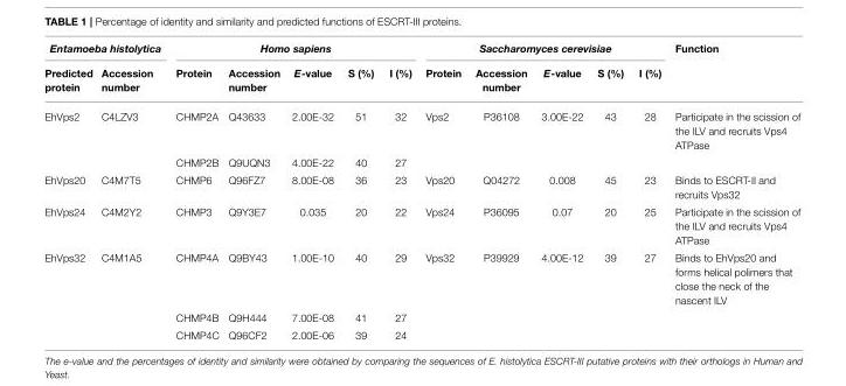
<table><thead><tr><td colspan="2">Entamoeba histolytica</td><td colspan="5">Homo sapiens</td><td colspan="5">Saccharomyces cerevisiae</td><td rowspan="2">Function</td></tr><tr><td>Predicted protein</td><td>Accession number</td><td>Protein</td><td>Accession number</td><td>E-value</td><td>S (%)</td><td>I (%)</td><td>Protein</td><td>Accession number</td><td>E-value</td><td>S (%)</td><td>I (%)</td></tr></thead><tbody><tr><td rowspan="2">EhVps2</td><td>C4LZV3</td><td>CHMP2A</td><td>Q43633</td><td>2.00E-32</td><td>51</td><td>32</td><td>Vps2</td><td>P36108</td><td>3.00E-22</td><td>43</td><td>28</td><td>Participate in the scission of the ILV and recruits Vps4 ATPase</td></tr><tr><td></td><td>CHMP2B</td><td>Q9UQN3</td><td>4.00E-22</td><td>40</td><td>27</td><td></td><td></td><td></td><td></td><td></td><td></td></tr><tr><td>EhVps20</td><td>C4M7T5</td><td>CHMP6</td><td>Q96FZ7</td><td>8.00E-08</td><td>36</td><td>23</td><td>Vps20</td><td>Q04272</td><td>0.008</td><td>45</td><td>23</td><td>Binds to ESCRT-II and recruits Vps32</td></tr><tr><td>EhVps24</td><td>C4M2Y2</td><td>CHMP3</td><td>Q9Y3E7</td><td>0.035</td><td>20</td><td>22</td><td>Vps24</td><td>P36095</td><td>0.07</td><td>20</td><td>25</td><td>Participate in the scission of the ILV and recruits Vps4 ATPase</td></tr><tr><td rowspan="3">EhVps32</td><td>C4M1A5</td><td>CHMP4A</td><td>Q9BY43</td><td>1.00E-10</td><td>40</td><td>29</td><td>Vps32</td><td>P39929</td><td>4.00E-12</td><td>39</td><td>27</td><td>Binds to EhVps20 and forms helical polimers that close the neck of the nascent ILV</td></tr><tr><td></td><td>CHMP4B</td><td>Q9H444</td><td>7.00E-08</td><td>41</td><td>27</td><td></td><td></td><td></td><td></td><td></td><td></td></tr><tr><td></td><td>CHMP4C</td><td>Q96CF2</td><td>2.00E-06</td><td>39</td><td>24</td><td></td><td></td><td></td><td></td><td></td><td></td></tr></tbody></table>